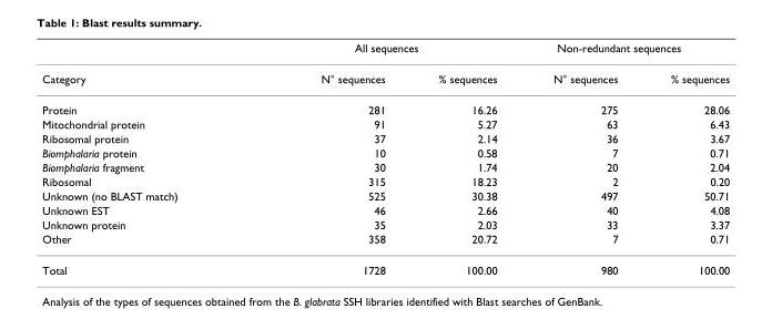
<table><thead><tr><td rowspan="2">Category</td><td colspan="2">All sequences</td><td colspan="2">Non-redundant sequences</td></tr><tr><td>N° sequences</td><td>% sequences</td><td>N° sequences</td><td>% sequences</td></tr></thead><tbody><tr><td>Protein</td><td>281</td><td>16.26</td><td>275</td><td>28.06</td></tr><tr><td>Mitochondrial protein</td><td>91</td><td>5.27</td><td>63</td><td>6.43</td></tr><tr><td>Ribosomal protein</td><td>37</td><td>2.14</td><td>36</td><td>3.67</td></tr><tr><td>Biomphalaria protein</td><td>10</td><td>0.58</td><td>7</td><td>0.71</td></tr><tr><td>Biomphalaria fragment</td><td>30</td><td>1.74</td><td>20</td><td>2.04</td></tr><tr><td>Ribosomal</td><td>315</td><td>18.23</td><td>2</td><td>0.20</td></tr><tr><td>Unknown (no BLAST match)</td><td>525</td><td>30.38</td><td>497</td><td>50.71</td></tr><tr><td>Unknown EST</td><td>46</td><td>2.66</td><td>40</td><td>4.08</td></tr><tr><td>Unknown protein</td><td>35</td><td>2.03</td><td>33</td><td>3.37</td></tr><tr><td>Other</td><td>358</td><td>20.72</td><td>7</td><td>0.71</td></tr><tr><td>Total</td><td>1728</td><td>100.00</td><td>980</td><td>100.00</td></tr></tbody></table>